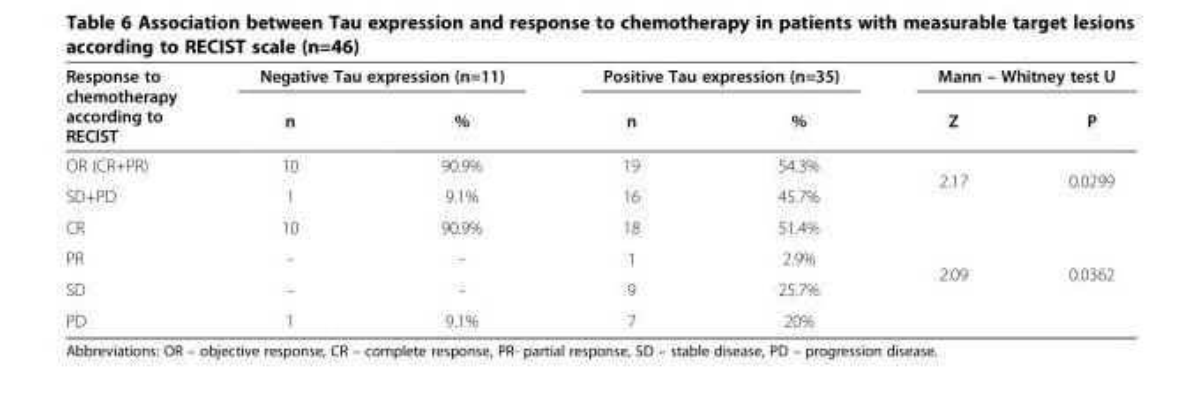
<table><thead><tr><td rowspan="2">Response to chemotherapy according to RECIST</td><td colspan="2">Negative Tau expression (n=11)</td><td colspan="2">Positive Tau expression (n=35)</td><td colspan="2">Mann – Whitney test U</td></tr><tr><td>n</td><td>%</td><td>n</td><td>%</td><td>Z</td><td>P</td></tr></thead><tbody><tr><td>OR (CR+PR)</td><td>10</td><td>90.9%</td><td>19</td><td>54.3%</td><td rowspan="2">2.17</td><td rowspan="2">0.0299</td></tr><tr><td>SD+PD</td><td>1</td><td>9.1%</td><td>16</td><td>45.7%</td></tr><tr><td>CR</td><td>10</td><td>90.9%</td><td>18</td><td>51.4%</td><td rowspan="4">2.09</td><td rowspan="4">0.0362</td></tr><tr><td>PR</td><td>-</td><td>-</td><td>1</td><td>2.9%</td></tr><tr><td>SD</td><td>-</td><td>-</td><td>9</td><td>25.7%</td></tr><tr><td>PD</td><td>1</td><td>9.1%</td><td>7</td><td>20%</td></tr></tbody></table>